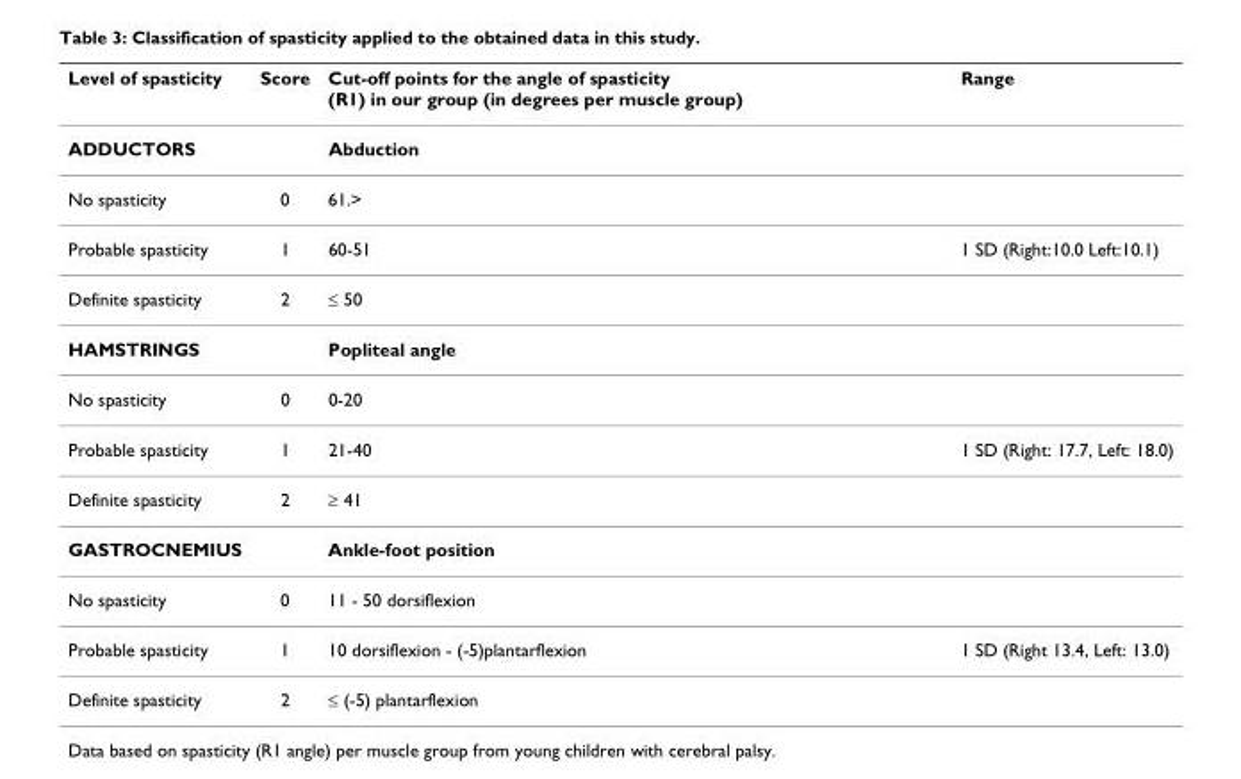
<table><thead><tr><td>Level of spasticity</td><td>Score</td><td>Cut-off points for the angle of spasticity (R1) in our group (in degrees per muscle group)</td><td>Range</td></tr></thead><tbody><tr><td>ADDUCTORS</td><td></td><td>Abduction</td><td></td></tr><tr><td>No spasticity</td><td>0</td><td>61.&gt;</td><td></td></tr><tr><td>Probable spasticity</td><td>1</td><td>60-51</td><td>1 SD (Right:10.0 Left:10.1)</td></tr><tr><td>Definite spasticity</td><td>2</td><td>≤ 50</td><td></td></tr><tr><td>HAMSTRINGS</td><td></td><td>Popliteal angle</td><td></td></tr><tr><td>No spasticity</td><td>0</td><td>0-20</td><td></td></tr><tr><td>Probable spasticity</td><td>1</td><td>21-40</td><td>1 SD (Right: 17.7, Left: 18.0)</td></tr><tr><td>Definite spasticity</td><td>2</td><td>≥ 41</td><td></td></tr><tr><td>GASTROCNEMIUS</td><td></td><td>Ankle-foot position</td><td></td></tr><tr><td>No spasticity</td><td>0</td><td>11 - 50 dorsiflexion</td><td></td></tr><tr><td>Probable spasticity</td><td>1</td><td>10 dorsiflexion - (-5)plantarflexion</td><td>1 SD (Right 13.4, Left: 13.0)</td></tr><tr><td>Definite spasticity</td><td>2</td><td>≤ (-5) plantarflexion</td><td></td></tr></tbody></table>